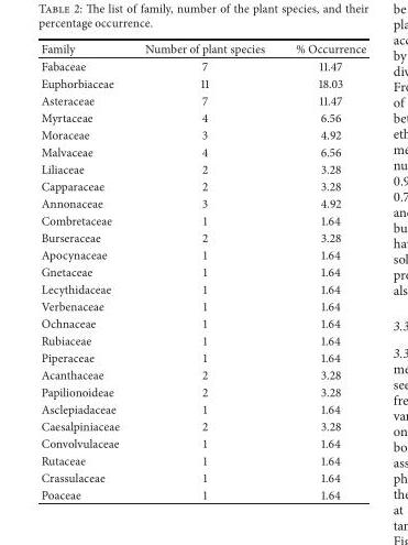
<table><thead><tr><td>Family</td><td>Number of plant species</td><td>% Occurrence</td></tr></thead><tbody><tr><td>Fabaceae</td><td>7</td><td>11.47</td></tr><tr><td>Euphorbiaceae</td><td>11</td><td>18.03</td></tr><tr><td>Asteraceae</td><td>7</td><td>11.47</td></tr><tr><td>Myrtaceae</td><td>4</td><td>6.56</td></tr><tr><td>Moraceae</td><td>3</td><td>4.92</td></tr><tr><td>Malvaceae</td><td>4</td><td>6.56</td></tr><tr><td>Liliaceae</td><td>2</td><td>3.28</td></tr><tr><td>Capparaceae</td><td>2</td><td>3.28</td></tr><tr><td>Annonaceae</td><td>3</td><td>4.92</td></tr><tr><td>Combretaceae</td><td>1</td><td>1.64</td></tr><tr><td>Burseraceae</td><td>2</td><td>3.28</td></tr><tr><td>Apocynaceae</td><td>1</td><td>1.64</td></tr><tr><td>Gnetaceae</td><td>1</td><td>1.64</td></tr><tr><td>Lecythidaceae</td><td>1</td><td>1.64</td></tr><tr><td>Verbenaceae</td><td>1</td><td>1.64</td></tr><tr><td>Ochnaceae</td><td>1</td><td>1.64</td></tr><tr><td>Rubiaceae</td><td>1</td><td>1.64</td></tr><tr><td>Piperaceae</td><td>1</td><td>1.64</td></tr><tr><td>Acanthaceae</td><td>2</td><td>3.28</td></tr><tr><td>Papilionoideae</td><td>2</td><td>3.28</td></tr><tr><td>Asclepiadaceae</td><td>1</td><td>1.64</td></tr><tr><td>Caesalpiniaceae</td><td>2</td><td>3.28</td></tr><tr><td>Convolvulaceae</td><td>1</td><td>1.64</td></tr><tr><td>Rutaceae</td><td>1</td><td>1.64</td></tr><tr><td>Crassulaceae</td><td>1</td><td>1.64</td></tr><tr><td>Poaceae</td><td>1</td><td>1.64</td></tr></tbody></table>